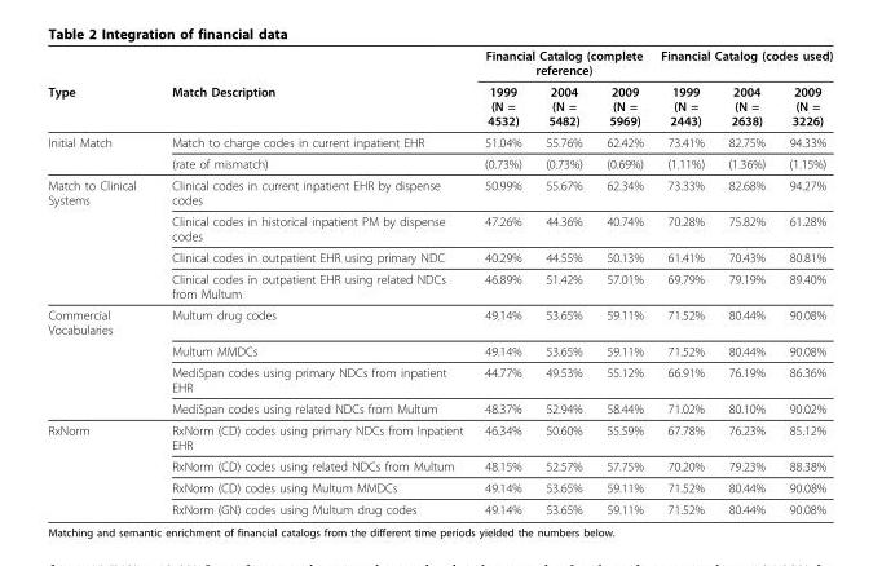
<table><thead><tr><td rowspan="2">Type</td><td rowspan="2">Match Description</td><td colspan="3">Financial Catalog (complete reference)</td><td colspan="3">Financial Catalog (codes used)</td></tr><tr><td>1999 (N = 4532)</td><td>2004 (N = 5482)</td><td>2009 (N = 5969)</td><td>1999 (N = 2443)</td><td>2004 (N = 2638)</td><td>2009 (N = 3226)</td></tr></thead><tbody><tr><td rowspan="2">Initial Match</td><td>Match to charge codes in current inpatient EHR</td><td>51.04%</td><td>55.76%</td><td>62.42%</td><td>73.41%</td><td>82.75%</td><td>94.33%</td></tr><tr><td>(rate of mismatch)</td><td>(0.73%)</td><td>(0.73%)</td><td>(0.69%)</td><td>(1.11%)</td><td>(1.36%)</td><td>(1.15%)</td></tr><tr><td rowspan="4">Match to Clinical Systems</td><td>Clinical codes in current inpatient EHR by dispense codes</td><td>50.99%</td><td>55.67%</td><td>62.34%</td><td>73.33%</td><td>82.68%</td><td>94.27%</td></tr><tr><td>Clinical codes in historical inpatient PM by dispense codes</td><td>47.26%</td><td>44.36%</td><td>40.74%</td><td>70.28%</td><td>75.82%</td><td>61.28%</td></tr><tr><td>Clinical codes in outpatient EHR using primary NDC</td><td>40.29%</td><td>44.55%</td><td>50.13%</td><td>61.41%</td><td>70.43%</td><td>80.81%</td></tr><tr><td>Clinical codes in outpatient EHR using related NDCs from Multum</td><td>46.89%</td><td>51.42%</td><td>57.01%</td><td>69.79%</td><td>79.19%</td><td>89.40%</td></tr><tr><td rowspan="4">Commercial Vocabularies</td><td>Multum drug codes</td><td>49.14%</td><td>53.65%</td><td>59.11%</td><td>71.52%</td><td>80.44%</td><td>90.08%</td></tr><tr><td>Multum MMDCs</td><td>49.14%</td><td>53.65%</td><td>59.11%</td><td>71.52%</td><td>80.44%</td><td>90.08%</td></tr><tr><td>MediSpan codes using primary NDCs from inpatient EHR</td><td>44.77%</td><td>49.53%</td><td>55.12%</td><td>66.91%</td><td>76.19%</td><td>86.36%</td></tr><tr><td>MediSpan codes using related NDCs from Multum</td><td>48.37%</td><td>52.94%</td><td>58.44%</td><td>71.02%</td><td>80.10%</td><td>90.02%</td></tr><tr><td rowspan="4">RxNorm</td><td>RxNorm (CD) codes using primary NDCs from Inpatient EHR</td><td>46.34%</td><td>50.60%</td><td>55.59%</td><td>67.78%</td><td>76.23%</td><td>85.12%</td></tr><tr><td>RxNorm (CD) codes using related NDCs from Multum</td><td>48.15%</td><td>52.57%</td><td>57.75%</td><td>70.20%</td><td>79.23%</td><td>88.38%</td></tr><tr><td>RxNorm (CD) codes using Multum MMDCs</td><td>49.14%</td><td>53.65%</td><td>59.11%</td><td>71.52%</td><td>80.44%</td><td>90.08%</td></tr><tr><td>RxNorm (GN) codes using Multum drug codes</td><td>49.14%</td><td>53.65%</td><td>59.11%</td><td>71.52%</td><td>80.44%</td><td>90.08%</td></tr></tbody></table>